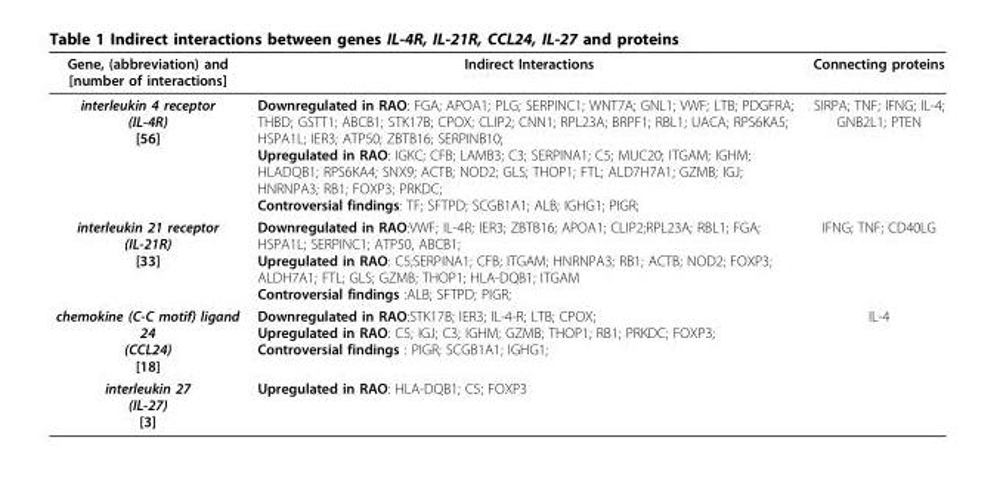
<table><thead><tr><td>Gene, (abbreviation) and [number of interactions]</td><td>Indirect Interactions</td><td>Connecting proteins</td></tr></thead><tbody><tr><td>interleukin 4 receptor (IL-4R) [56]</td><td>Downregulated in RAO: FGA; APOA1; PLG; SERPINC1; WNT7A; GNL1; VWF; LTB; PDGFRA; THBD; GSTT1; ABCB1; STK17B; CPOX; CLIP2; CNN1; RPL23A; BRPF1; RBL1; UACA; RPS6KA5; HSPA1L; IER3; ATP50; ZBTB16; SERPINB10; Upregulated in RAO: IGKC; CFB; LAMB3; C3; SERPINA1; C5; MUC20; ITGAM; IGHM; HLADQB1; RPS6KA4; SNX9; ACTB; NOD2; GLS; THOP1; FTL; ALD7H7A1; GZMB; IGJ; HNRNPA3; RB1; FOXP3; PRKDC; Controversial findings: TF; SFTPD; SCGB1A1; ALB; IGHG1; PIGR;</td><td>SIRPA; TNF; IFNG; IL-4; GNB2L1; PTEN</td></tr><tr><td>interleukin 21 receptor (IL-21R) [33]</td><td>Downregulated in RAO:VWF; IL-4R; IER3; ZBTB16; APOA1; CLIP2;RPL23A; RBL1; FGA; HSPA1L; SERPINC1; ATP50, ABCB1; Upregulated in RAO: C5;SERPINA1; CFB; ITGAM; HNRNPA3; RB1; ACTB; NOD2; FOXP3; ALDH7A1; FTL; GLS; GZMB; THOP1; HLA-DQB1; ITGAM Controversial findings :ALB; SFTPD; PIGR;</td><td>IFNG; TNF; CD40LG</td></tr><tr><td>chemokine (C-C motif) ligand 24 (CCL24) [18]</td><td>Downregulated in RAO:STK17B; IER3; IL-4-R; LTB; CPOX; Upregulated in RAO: C5; IGJ; C3; IGHM; GZMB; THOP1; RB1; PRKDC; FOXP3; Controversial findings : PIGR; SCGB1A1; IGHG1;</td><td>IL-4</td></tr><tr><td>interleukin 27 (IL-27) [3]</td><td>Upregulated in RAO: HLA-DQB1; C5; FOXP3</td><td></td></tr></tbody></table>